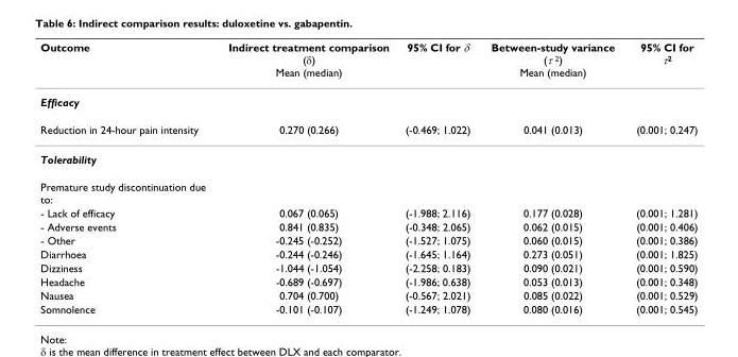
<table><thead><tr><td>Outcome</td><td>Indirect treatment comparison (δ) Mean (median)</td><td>95% CI for δ</td><td>Between-study variance (τ <sup>2</sup>) Mean (median)</td><td>95% CI for τ<sup>2</sup></td></tr></thead><tbody><tr><td colspan="5">Efficacy</td></tr><tr><td>Reduction in 24-hour pain intensity</td><td>0.270 (0.266)</td><td>(-0.469; 1.022)</td><td>0.041 (0.013)</td><td>(0.001; 0.247)</td></tr><tr><td colspan="5">Tolerability</td></tr><tr><td colspan="5">Premature study discontinuation due to:</td></tr><tr><td>- Lack of efficacy</td><td>0.067 (0.065)</td><td>(-1.988; 2.116)</td><td>0.177 (0.028)</td><td>(0.001; 1.281)</td></tr><tr><td>- Adverse events</td><td>0.841 (0.835)</td><td>(-0.348; 2.065)</td><td>0.062 (0.015)</td><td>(0.001; 0.406)</td></tr><tr><td>- Other</td><td>-0.245 (-0.252)</td><td>(-1.527; 1.075)</td><td>0.060 (0.015)</td><td>(0.001; 0.386)</td></tr><tr><td>Diarrhoea</td><td>-0.244 (-0.246)</td><td>(-1.645; 1.164)</td><td>0.273 (0.051)</td><td>(0.001; 1.825)</td></tr><tr><td>Dizziness</td><td>-1.044 (-1.054)</td><td>(-2.258; 0.183)</td><td>0.090 (0.021)</td><td>(0.001; 0.590)</td></tr><tr><td>Headache</td><td>-0.689 (-0.697)</td><td>(-1.986; 0.638)</td><td>0.053 (0.013)</td><td>(0.001; 0.348)</td></tr><tr><td>Nausea</td><td>0.704 (0.700)</td><td>(-0.567; 2.021)</td><td>0.085 (0.022)</td><td>(0.001; 0.529)</td></tr><tr><td>Somnolence</td><td>-0.101 (-0.107)</td><td>(-1.249; 1.078)</td><td>0.080 (0.016)</td><td>(0.001; 0.545)</td></tr></tbody></table>